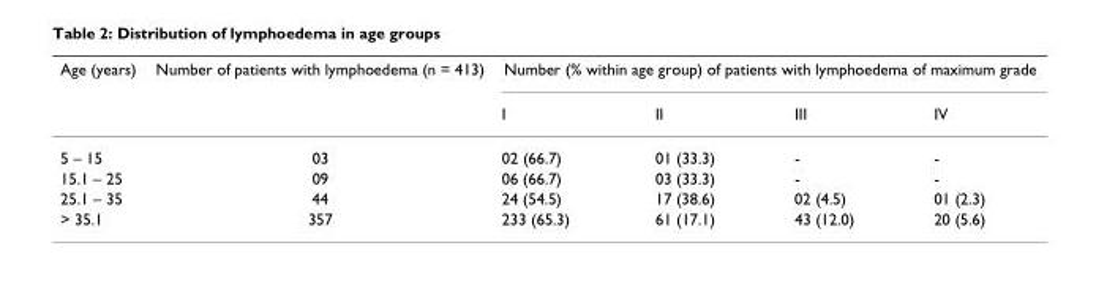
<table><thead><tr><td rowspan="2">Age (years)</td><td rowspan="2">Number of patients with lymphoedema (n = 413)</td><td colspan="4">Number (% within age group) of patients with lymphoedema of maximum grade</td></tr><tr><td>I</td><td>II</td><td>III</td><td>IV</td></tr></thead><tbody><tr><td>5 – 15</td><td>03</td><td>02 (66.7)</td><td>01 (33.3)</td><td>-</td><td>-</td></tr><tr><td>15.1 – 25</td><td>09</td><td>06 (66.7)</td><td>03 (33.3)</td><td>-</td><td>-</td></tr><tr><td>25.1 – 35</td><td>44</td><td>24 (54.5)</td><td>17 (38.6)</td><td>02 (4.5)</td><td>01 (2.3)</td></tr><tr><td>&gt; 35.1</td><td>357</td><td>233 (65.3)</td><td>61 (17.1)</td><td>43 (12.0)</td><td>20 (5.6)</td></tr></tbody></table>